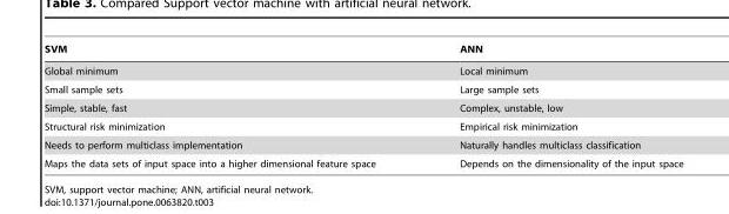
<table><thead><tr><td>SVM</td><td>ANN</td></tr></thead><tbody><tr><td>Global minimum</td><td>Local minimum</td></tr><tr><td>Small sample sets</td><td>Large sample sets</td></tr><tr><td>Simple, stable, fast</td><td>Complex, unstable, low</td></tr><tr><td>Structural risk minimization</td><td>Empirical risk minimization</td></tr><tr><td>Needs to perform multiclass implementation</td><td>Naturally handles multiclass classification</td></tr><tr><td>Maps the data sets of input space into a higher dimensional feature space</td><td>Depends on the dimensionality of the input space</td></tr></tbody></table>